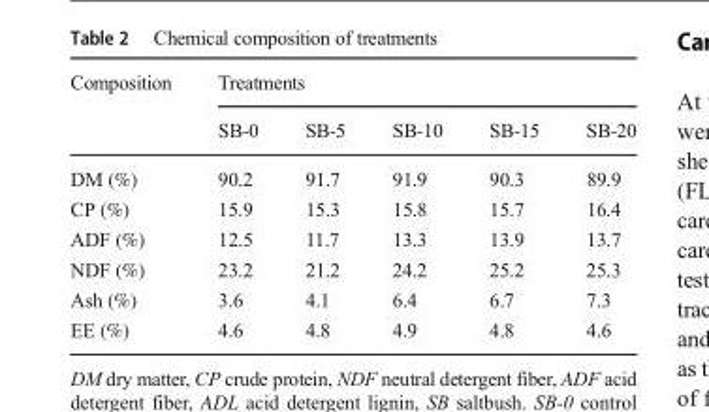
<table><thead><tr><td rowspan="2">Composition</td><td colspan="5">Treatments</td></tr><tr><td>SB-0</td><td>SB-5</td><td>SB-10</td><td>SB-15</td><td>SB-20</td></tr></thead><tbody><tr><td>DM (%)</td><td>90.2</td><td>91.7</td><td>91.9</td><td>90.3</td><td>89.9</td></tr><tr><td>CP (%)</td><td>15.9</td><td>15.3</td><td>15.8</td><td>15.7</td><td>16.4</td></tr><tr><td>ADF (%)</td><td>12.5</td><td>11.7</td><td>13.3</td><td>13.9</td><td>13.7</td></tr><tr><td>NDF (%)</td><td>23.2</td><td>21.2</td><td>24.2</td><td>25.2</td><td>25.3</td></tr><tr><td>Ash (%)</td><td>3.6</td><td>4.1</td><td>6.4</td><td>6.7</td><td>7.3</td></tr><tr><td>EE (%)</td><td>4.6</td><td>4.8</td><td>4.9</td><td>4.8</td><td>4.6</td></tr></tbody></table>